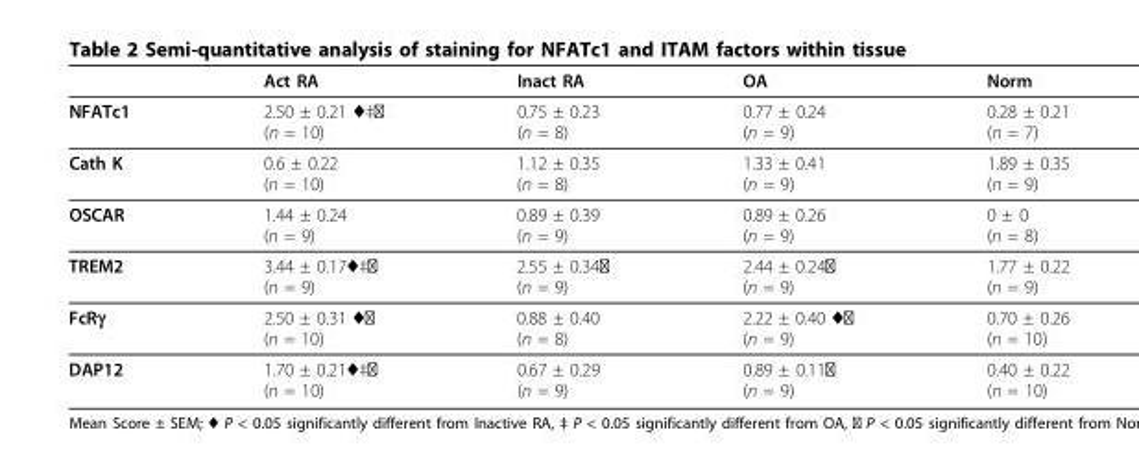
<table><thead><tr><td></td><td>Act RA</td><td>Inact RA</td><td>OA</td><td>Norm</td></tr></thead><tbody><tr><td>NFATc1</td><td>2.50 ± 0.21 ♦‡◘ (n = 10)</td><td>0.75 ± 0.23 (n = 8)</td><td>0.77 ± 0.24 (n = 9)</td><td>0.28 ± 0.21 (n = 7)</td></tr><tr><td>Cath K</td><td>0.6 ± 0.22 (n = 10)</td><td>1.12 ± 0.35 (n = 8)</td><td>1.33 ± 0.41 (n = 9)</td><td>1.89 ± 0.35 (n = 9)</td></tr><tr><td>OSCAR</td><td>1.44 ± 0.24 (n = 9)</td><td>0.89 ± 0.39 (n = 9)</td><td>0.89 ± 0.26 (n = 9)</td><td>0 ± 0 (n = 8)</td></tr><tr><td>TREM2</td><td>3.44 ± 0.17♦‡◘ (n = 9)</td><td>2.55 ± 0.34◘ (n = 9)</td><td>2.44 ± 0.24◘ (n = 9)</td><td>1.77 ± 0.22 (n = 9)</td></tr><tr><td>FcRγ</td><td>2.50 ± 0.31 ♦◘ (n = 10)</td><td>0.88 ± 0.40 (n = 8)</td><td>2.22 ± 0.40 ♦◘ (n = 9)</td><td>0.70 ± 0.26 (n = 10)</td></tr><tr><td>DAP12</td><td>1.70 ± 0.21♦‡◘ (n = 10)</td><td>0.67 ± 0.29 (n = 9)</td><td>0.89 ± 0.11◘ (n = 9)</td><td>0.40 ± 0.22 (n = 10)</td></tr></tbody></table>